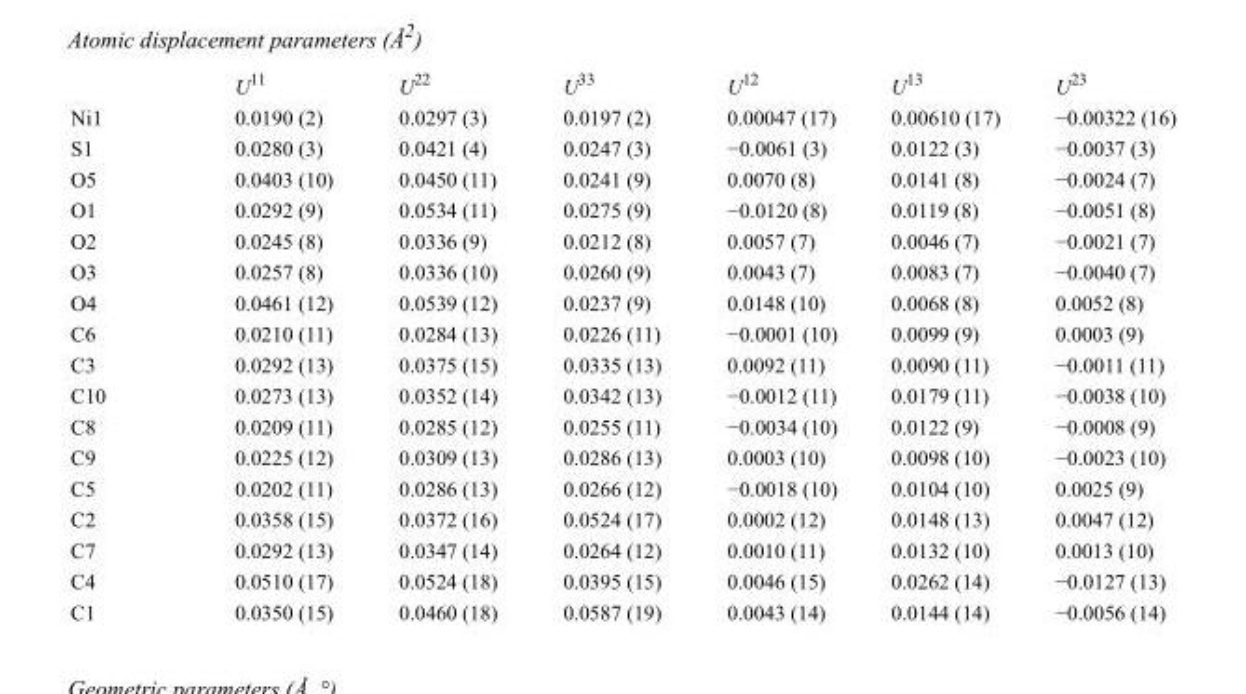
<table><thead><tr><td></td><td>U<sup>11</sup></td><td>U<sup>22</sup></td><td>U<sup>33</sup></td><td>U<sup>12</sup></td><td>U<sup>13</sup></td><td>U<sup>23</sup></td></tr></thead><tbody><tr><td>Ni1</td><td>0.0190 (2)</td><td>0.0297 (3)</td><td>0.0197 (2)</td><td>0.00047 (17)</td><td>0.00610 (17)</td><td>−0.00322 (16)</td></tr><tr><td>S1</td><td>0.0280 (3)</td><td>0.0421 (4)</td><td>0.0247 (3)</td><td>−0.0061 (3)</td><td>0.0122 (3)</td><td>−0.0037 (3)</td></tr><tr><td>O5</td><td>0.0403 (10)</td><td>0.0450 (11)</td><td>0.0241 (9)</td><td>0.0070 (8)</td><td>0.0141 (8)</td><td>−0.0024 (7)</td></tr><tr><td>O1</td><td>0.0292 (9)</td><td>0.0534 (11)</td><td>0.0275 (9)</td><td>−0.0120 (8)</td><td>0.0119 (8)</td><td>−0.0051 (8)</td></tr><tr><td>O2</td><td>0.0245 (8)</td><td>0.0336 (9)</td><td>0.0212 (8)</td><td>0.0057 (7)</td><td>0.0046 (7)</td><td>−0.0021 (7)</td></tr><tr><td>O3</td><td>0.0257 (8)</td><td>0.0336 (10)</td><td>0.0260 (9)</td><td>0.0043 (7)</td><td>0.0083 (7)</td><td>−0.0040 (7)</td></tr><tr><td>O4</td><td>0.0461 (12)</td><td>0.0539 (12)</td><td>0.0237 (9)</td><td>0.0148 (10)</td><td>0.0068 (8)</td><td>0.0052 (8)</td></tr><tr><td>C6</td><td>0.0210 (11)</td><td>0.0284 (13)</td><td>0.0226 (11)</td><td>−0.0001 (10)</td><td>0.0099 (9)</td><td>0.0003 (9)</td></tr><tr><td>C3</td><td>0.0292 (13)</td><td>0.0375 (15)</td><td>0.0335 (13)</td><td>0.0092 (11)</td><td>0.0090 (11)</td><td>−0.0011 (11)</td></tr><tr><td>C10</td><td>0.0273 (13)</td><td>0.0352 (14)</td><td>0.0342 (13)</td><td>−0.0012 (11)</td><td>0.0179 (11)</td><td>−0.0038 (10)</td></tr><tr><td>C8</td><td>0.0209 (11)</td><td>0.0285 (12)</td><td>0.0255 (11)</td><td>−0.0034 (10)</td><td>0.0122 (9)</td><td>−0.0008 (9)</td></tr><tr><td>C9</td><td>0.0225 (12)</td><td>0.0309 (13)</td><td>0.0286 (13)</td><td>0.0003 (10)</td><td>0.0098 (10)</td><td>−0.0023 (10)</td></tr><tr><td>C5</td><td>0.0202 (11)</td><td>0.0286 (13)</td><td>0.0266 (12)</td><td>−0.0018 (10)</td><td>0.0104 (10)</td><td>0.0025 (9)</td></tr><tr><td>C2</td><td>0.0358 (15)</td><td>0.0372 (16)</td><td>0.0524 (17)</td><td>0.0002 (12)</td><td>0.0148 (13)</td><td>0.0047 (12)</td></tr><tr><td>C7</td><td>0.0292 (13)</td><td>0.0347 (14)</td><td>0.0264 (12)</td><td>0.0010 (11)</td><td>0.0132 (10)</td><td>0.0013 (10)</td></tr><tr><td>C4</td><td>0.0510 (17)</td><td>0.0524 (18)</td><td>0.0395 (15)</td><td>0.0046 (15)</td><td>0.0262 (14)</td><td>−0.0127 (13)</td></tr><tr><td>C1</td><td>0.0350 (15)</td><td>0.0460 (18)</td><td>0.0587 (19)</td><td>0.0043 (14)</td><td>0.0144 (14)</td><td>−0.0056 (14)</td></tr></tbody></table>